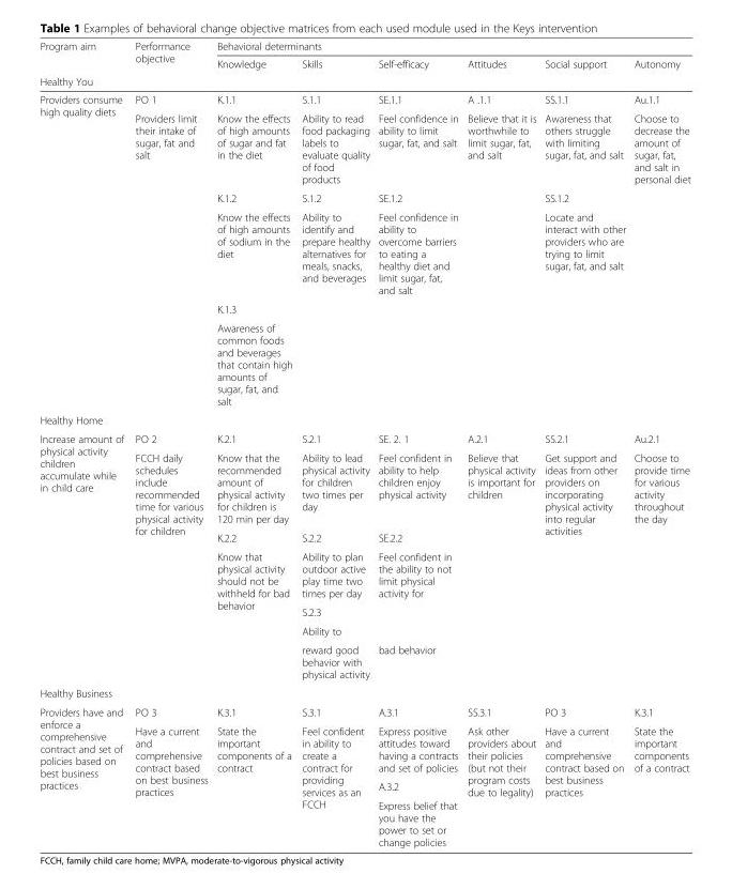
<table><thead><tr><td rowspan="3">Program aim Healthy You</td><td rowspan="3">Performance objective</td><td colspan="6">Behavioral determinants</td></tr><tr><td rowspan="2">Knowledge</td><td rowspan="2">Skills</td><td rowspan="2">Self-efficacy</td><td rowspan="2">Attitudes</td><td rowspan="2">Social support</td><td rowspan="2">Autonomy</td></tr><tr></tr></thead><tbody><tr><td rowspan="6">Providers consume high quality diets</td><td>PO 1</td><td>K.1.1</td><td>S.1.1</td><td>SE.1.1</td><td>A .1.1</td><td>SS.1.1</td><td>Au.1.1</td></tr><tr><td>Providers limit their intake of sugar, fat and salt</td><td>Know the effects of high amounts of sugar and fat in the diet</td><td>Ability to read food packaging labels to evaluate quality of food products</td><td>Feel confidence in ability to limit sugar, fat, and salt</td><td>Believe that it is worthwhile to limit sugar, fat, and salt</td><td>Awareness that others struggle with limiting sugar, fat, and salt</td><td rowspan="5">Choose to decrease the amount of sugar, fat, and salt in personal diet</td></tr><tr><td rowspan="4"></td><td>K.1.2</td><td>S.1.2</td><td>SE.1.2</td><td></td><td>SS.1.2</td></tr><tr><td>Know the effects of high amounts of sodium in the diet</td><td>Ability to identify and prepare healthy alternatives for meals, snacks, and beverages</td><td>Feel confidence in ability to overcome barriers to eating a healthy diet and limit sugar, fat, and salt</td><td></td><td>Locate and interact with other providers who are trying to limit sugar, fat, and salt</td></tr><tr><td>K.1.3</td><td rowspan="2"></td><td rowspan="2"></td><td rowspan="2"></td><td rowspan="2"></td></tr><tr><td>Awareness of common foods and beverages that contain high amounts of sugar, fat, and salt</td></tr><tr><td colspan="8">Healthy Home</td></tr><tr><td rowspan="7">Increase amount of physical activity children accumulate while in child care</td><td>PO 2</td><td>K.2.1</td><td>S.2.1</td><td>SE. 2. 1</td><td>A.2.1</td><td>SS.2.1</td><td>Au.2.1</td></tr><tr><td rowspan="6">FCCH daily schedules include recommended time for various physical activity for children</td><td>Know that the recommended amount of physical activity for children is 120 min per day</td><td>Ability to lead physical activity for children two times per day</td><td>Feel confident in ability to help children enjoy physical activity</td><td rowspan="6">Believe that physical activity is important for children</td><td rowspan="6">Get support and ideas from other providers on incorporating physical activity into regular activities</td><td rowspan="6">Choose to provide time for various activity throughout the day</td></tr><tr><td>K.2.2</td><td>S.2.2</td><td>SE.2.2</td></tr><tr><td rowspan="4">Know that physical activity should not be withheld for bad behavior</td><td>Ability to plan outdoor active play time two times per day</td><td rowspan="3">Feel confident in the ability to not limit physical activity for</td></tr><tr><td>S.2.3</td></tr><tr><td>Ability to</td></tr><tr><td>reward good behavior with physical activity</td><td>bad behavior</td></tr><tr><td colspan="8">Healthy Business</td></tr><tr><td rowspan="4">Providers have and enforce a comprehensive contract and set of policies based on best business practices</td><td>PO 3</td><td>K.3.1</td><td>S.3.1</td><td>A.3.1</td><td>SS.3.1</td><td>PO 3</td><td>K.3.1</td></tr><tr><td rowspan="3">Have a current and comprehensive contract based on best business practices</td><td rowspan="3">State the important components of a contract</td><td rowspan="3">Feel confident in ability to create a contract for providing services as an FCCH</td><td>Express positive attitudes toward having a contracts and set of policies</td><td rowspan="3">Ask other providers about their policies (but not their program costs due to legality)</td><td rowspan="3">Have a current and comprehensive contract based on best business practices</td><td rowspan="3">State the important components of a contract</td></tr><tr><td>A.3.2</td></tr><tr><td>Express belief that you have the power to set or change policies</td></tr></tbody></table>